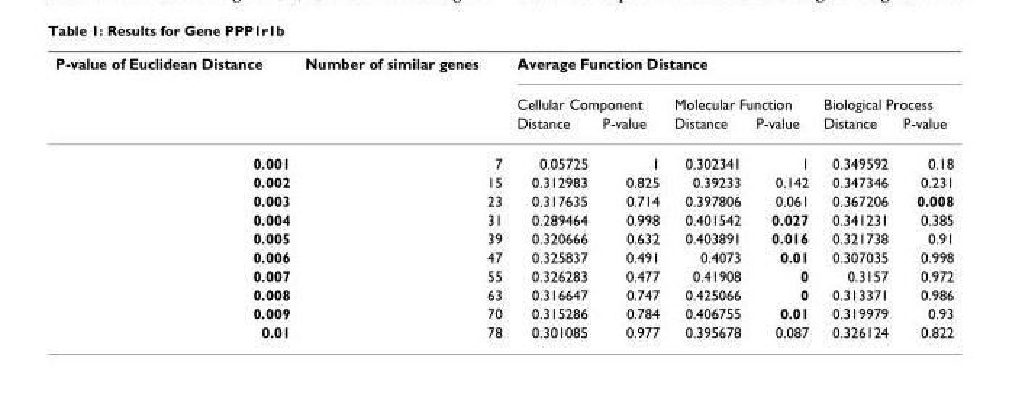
<table><thead><tr><td rowspan="3">P-value of Euclidean Distance</td><td rowspan="3">Number of similar genes</td><td colspan="6">Average Function Distance</td></tr><tr><td colspan="2">Cellular Component</td><td colspan="2">Molecular Function</td><td colspan="2">Biological Process</td></tr><tr><td>Distance</td><td>P-value</td><td>Distance</td><td>P-value</td><td>Distance</td><td>P-value</td></tr></thead><tbody><tr><td>0.001</td><td>7</td><td>0.05725</td><td>1</td><td>0.302341</td><td>1</td><td>0.349592</td><td>0.18</td></tr><tr><td>0.002</td><td>15</td><td>0.312983</td><td>0.825</td><td>0.39233</td><td>0.142</td><td>0.347346</td><td>0.231</td></tr><tr><td>0.003</td><td>23</td><td>0.317635</td><td>0.714</td><td>0.397806</td><td>0.061</td><td>0.367206</td><td>0.008</td></tr><tr><td>0.004</td><td>31</td><td>0.289464</td><td>0.998</td><td>0.401542</td><td>0.027</td><td>0.341231</td><td>0.385</td></tr><tr><td>0.005</td><td>39</td><td>0.320666</td><td>0.632</td><td>0.403891</td><td>0.016</td><td>0.321738</td><td>0.91</td></tr><tr><td>0.006</td><td>47</td><td>0.325837</td><td>0.491</td><td>0.4073</td><td>0.01</td><td>0.307035</td><td>0.998</td></tr><tr><td>0.007</td><td>55</td><td>0.326283</td><td>0.477</td><td>0.41908</td><td>0</td><td>0.3157</td><td>0.972</td></tr><tr><td>0.008</td><td>63</td><td>0.316647</td><td>0.747</td><td>0.425066</td><td>0</td><td>0.313371</td><td>0.986</td></tr><tr><td>0.009</td><td>70</td><td>0.315286</td><td>0.784</td><td>0.406755</td><td>0.01</td><td>0.319979</td><td>0.93</td></tr><tr><td>0.01</td><td>78</td><td>0.301085</td><td>0.977</td><td>0.395678</td><td>0.087</td><td>0.326124</td><td>0.822</td></tr></tbody></table>